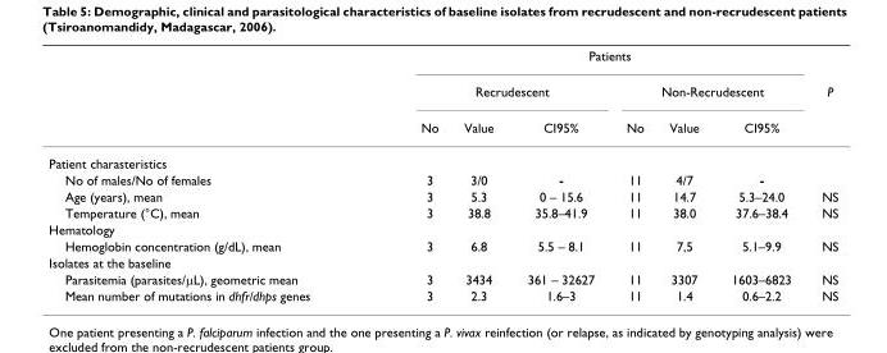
<table><thead><tr><td rowspan="3"></td><td colspan="6">Patients</td><td rowspan="3">P</td></tr><tr><td colspan="3">Recrudescent</td><td colspan="3">Non-Recrudescent</td></tr><tr><td>No</td><td>Value</td><td>CI95%</td><td>No</td><td>Value</td><td>CI95%</td></tr></thead><tbody><tr><td colspan="8">Patient charasteristics</td></tr><tr><td>No of males/No of females</td><td>3</td><td>3/0</td><td>-</td><td>11</td><td>4/7</td><td>-</td><td></td></tr><tr><td>Age (years), mean</td><td>3</td><td>5.3</td><td>0 – 15.6</td><td>11</td><td>14.7</td><td>5.3–24.0</td><td>NS</td></tr><tr><td>Temperature (°C), mean</td><td>3</td><td>38.8</td><td>35.8–41.9</td><td>11</td><td>38.0</td><td>37.6–38.4</td><td>NS</td></tr><tr><td colspan="8">Hematology</td></tr><tr><td>Hemoglobin concentration (g/dL), mean</td><td>3</td><td>6.8</td><td>5.5 – 8.1</td><td>11</td><td>7,5</td><td>5.1–9.9</td><td>NS</td></tr><tr><td colspan="8">Isolates at the baseline</td></tr><tr><td>Parasitemia (parasites/µL), geometric mean</td><td>3</td><td>3434</td><td>361 – 32627</td><td>11</td><td>3307</td><td>1603–6823</td><td>NS</td></tr><tr><td>Mean number of mutations in dhfr/dhps genes</td><td>3</td><td>2.3</td><td>1.6–3</td><td>11</td><td>1.4</td><td>0.6–2.2</td><td>NS</td></tr></tbody></table>